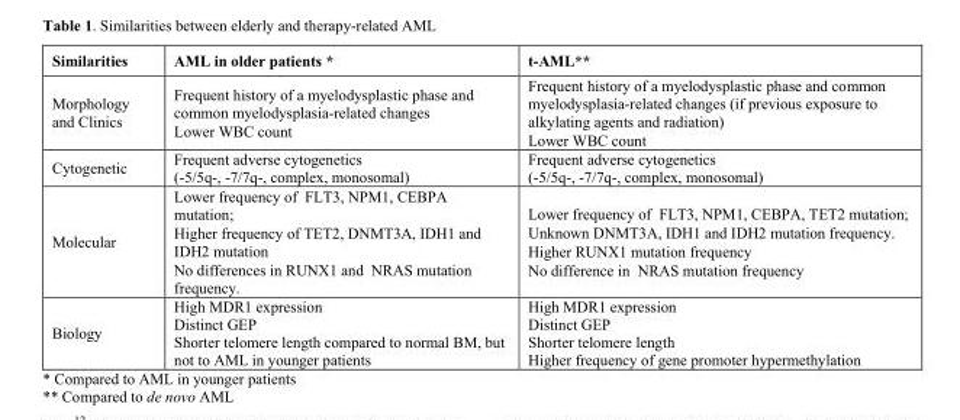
<table><thead><tr><td>Similarities</td><td>AML in older patients *</td><td>t-AML**</td></tr></thead><tbody><tr><td>Morphology and Clinics</td><td>Frequent history of a myelodysplastic phase and common myelodysplasia-related changes Lower WBC count</td><td>Frequent history of a myelodysplastic phase and common myelodysplasia-related changes (if previous exposure to alkylating agents and radiation) Lower WBC count</td></tr><tr><td>Cytogenetic</td><td>Frequent adverse cytogenetics (-5/5q-, -7/7q-, complex, monosomal)</td><td>Frequent adverse cytogenetics (-5/5q-, -7/7q-, complex, monosomal)</td></tr><tr><td>Molecular</td><td>Lower frequency of FLT3, NPM1, CEBPA mutation; Higher frequency of TET2, DNMT3A, IDH1 and IDH2 mutation No differences in RUNX1 and NRAS mutation frequency.</td><td>Lower frequency of FLT3, NPM1, CEBPA, TET2 mutation; Unknown DNMT3A, IDH1 and IDH2 mutation frequency. Higher RUNX1 mutation frequency No difference in NRAS mutation frequency</td></tr><tr><td>Biology</td><td>High MDR1 expression Distinct GEP Shorter telomere length compared to normal BM, but not to AML in younger patients</td><td>High MDR1 expression Distinct GEP Shorter telomere length Higher frequency of gene promoter hypermethylation</td></tr></tbody></table>